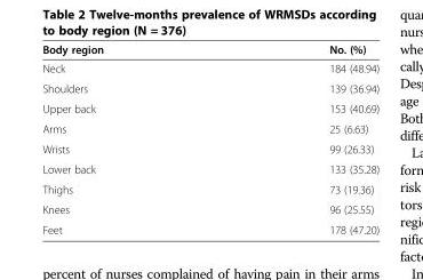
<table><thead><tr><td>Body region</td><td>No. (%)</td></tr></thead><tbody><tr><td>Neck</td><td>184 (48.94)</td></tr><tr><td>Shoulders</td><td>139 (36.94)</td></tr><tr><td>Upper back</td><td>153 (40.69)</td></tr><tr><td>Arms</td><td>25 (6.63)</td></tr><tr><td>Wrists</td><td>99 (26.33)</td></tr><tr><td>Lower back</td><td>133 (35.28)</td></tr><tr><td>Thighs</td><td>73 (19.36)</td></tr><tr><td>Knees</td><td>96 (25.55)</td></tr><tr><td>Feet</td><td>178 (47.20)</td></tr></tbody></table>